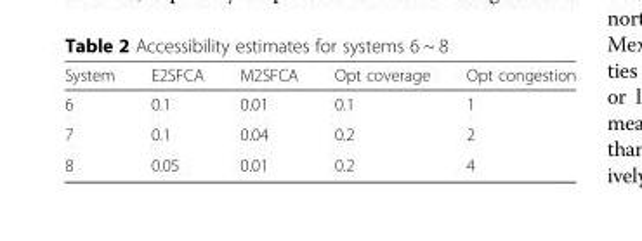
<table><thead><tr><td>System</td><td>E2SFCA</td><td>M2SFCA</td><td>Opt coverage</td><td>Opt congestion</td></tr></thead><tbody><tr><td>6</td><td>0.1</td><td>0.01</td><td>0.1</td><td>1</td></tr><tr><td>7</td><td>0.1</td><td>0.04</td><td>0.2</td><td>2</td></tr><tr><td>8</td><td>0.05</td><td>0.01</td><td>0.2</td><td>4</td></tr></tbody></table>